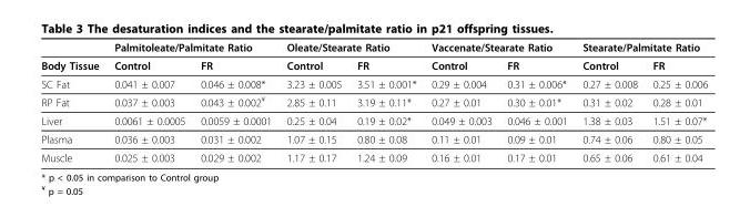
<table><thead><tr><td rowspan="2">Body Tissue</td><td colspan="2">Palmitoleate/Palmitate Ratio</td><td colspan="2">Oleate/Stearate Ratio</td><td colspan="2">Vaccenate/Stearate Ratio</td><td colspan="2">Stearate/Palmitate Ratio</td></tr><tr><td>Control</td><td>FR</td><td>Control</td><td>FR</td><td>Control</td><td>FR</td><td>Control</td><td>FR</td></tr></thead><tbody><tr><td>SC Fat</td><td>0.041 ± 0.007</td><td>0.046 ± 0.008*</td><td>3.23 ± 0.005</td><td>3.51 ± 0.001*</td><td>0.29 ± 0.004</td><td>0.31 ± 0.006*</td><td>0.27 ± 0.008</td><td>0.25 ± 0.006</td></tr><tr><td>RP Fat</td><td>0.037 ± 0.003</td><td>0.043 ± 0.002¥</td><td>2.85 ± 0.11</td><td>3.19 ± 0.11*</td><td>0.27 ± 0.01</td><td>0.30 ± 0.01*</td><td>0.31 ± 0.02</td><td>0.28 ± 0.01</td></tr><tr><td>Liver</td><td>0.0061 ± 0.0005</td><td>0.0059 ± 0.0001</td><td>0.25 ± 0.04</td><td>0.19 ± 0.02*</td><td>0.049 ± 0.003</td><td>0.046 ± 0.001</td><td>1.38 ± 0.03</td><td>1.51 ± 0.07*</td></tr><tr><td>Plasma</td><td>0.036 ± 0.003</td><td>0.031 ± 0.002</td><td>1.07 ± 0.15</td><td>0.80 ± 0.08</td><td>0.11 ± 0.01</td><td>0.09 ± 0.01</td><td>0.74 ± 0.06</td><td>0.80 ± 0.05</td></tr><tr><td>Muscle</td><td>0.025 ± 0.003</td><td>0.029 ± 0.002</td><td>1.17 ± 0.17</td><td>1.24 ± 0.09</td><td>0.16 ± 0.01</td><td>0.17 ± 0.01</td><td>0.65 ± 0.06</td><td>0.61 ± 0.04</td></tr></tbody></table>